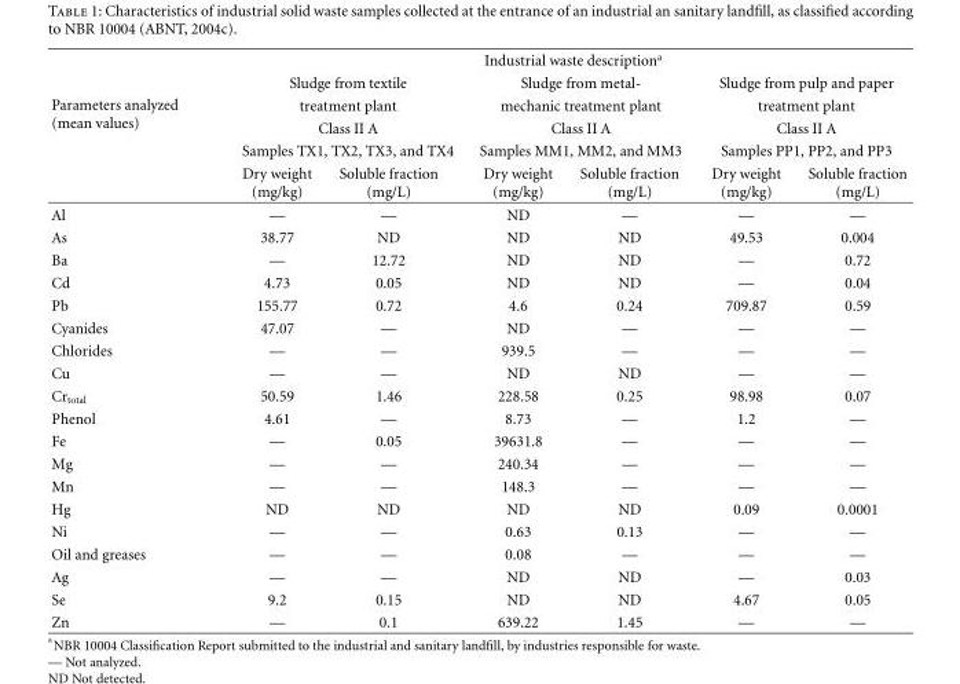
<table><thead><tr><td rowspan="6">Parameters analyzed (mean values)</td><td colspan="6">Industrial waste description<sup>a</sup></td></tr><tr><td rowspan="4" colspan="2">Sludge from textile treatment plant Class II A Samples TX1, TX2, TX3, and TX4</td><td rowspan="4" colspan="2">Sludge from metal- mechanic treatment plant Class II A Samples MM1, MM2, and MM3</td><td rowspan="4" colspan="2">Sludge from pulp and paper treatment plant Class II A Samples PP1, PP2, and PP3</td></tr><tr></tr><tr></tr><tr></tr><tr><td>Dry weight (mg/kg)</td><td>Soluble fraction (mg/L)</td><td>Dry weight (mg/kg)</td><td>Soluble fraction (mg/L)</td><td>Dry weight (mg/kg)</td><td>Soluble fraction (mg/L)</td></tr></thead><tbody><tr><td>Al</td><td>—</td><td>—</td><td>ND</td><td>—</td><td>—</td><td>—</td></tr><tr><td>As</td><td>38.77</td><td>ND</td><td>ND</td><td>ND</td><td>49.53</td><td>0.004</td></tr><tr><td>Ba</td><td>—</td><td>12.72</td><td>ND</td><td>ND</td><td>—</td><td>0.72</td></tr><tr><td>Cd</td><td>4.73</td><td>0.05</td><td>ND</td><td>ND</td><td>—</td><td>0.04</td></tr><tr><td>Pb</td><td>155.77</td><td>0.72</td><td>4.6</td><td>0.24</td><td>709.87</td><td>0.59</td></tr><tr><td>Cyanides</td><td>47.07</td><td>—</td><td>ND</td><td>—</td><td>—</td><td>—</td></tr><tr><td>Chlorides</td><td>—</td><td>—</td><td>939.5</td><td>—</td><td>—</td><td>—</td></tr><tr><td>Cu</td><td>—</td><td>—</td><td>ND</td><td>ND</td><td>—</td><td>—</td></tr><tr><td>Cr<sub>total</sub></td><td>50.59</td><td>1.46</td><td>228.58</td><td>0.25</td><td>98.98</td><td>0.07</td></tr><tr><td>Phenol</td><td>4.61</td><td>—</td><td>8.73</td><td>—</td><td>1.2</td><td>—</td></tr><tr><td>Fe</td><td>—</td><td>0.05</td><td>39631.8</td><td>—</td><td>—</td><td>—</td></tr><tr><td>Mg</td><td>—</td><td>—</td><td>240.34</td><td>—</td><td>—</td><td>—</td></tr><tr><td>Mn</td><td>—</td><td>—</td><td>148.3</td><td>—</td><td>—</td><td>—</td></tr><tr><td>Hg</td><td>ND</td><td>ND</td><td>ND</td><td>ND</td><td>0.09</td><td>0.0001</td></tr><tr><td>Ni</td><td>—</td><td>—</td><td>0.63</td><td>0.13</td><td>—</td><td>—</td></tr><tr><td>Oil and greases</td><td>—</td><td>—</td><td>0.08</td><td>—</td><td>—</td><td>—</td></tr><tr><td>Ag</td><td>—</td><td>—</td><td>ND</td><td>ND</td><td>—</td><td>0.03</td></tr><tr><td>Se</td><td>9.2</td><td>0.15</td><td>ND</td><td>ND</td><td>4.67</td><td>0.05</td></tr><tr><td>Zn</td><td>—</td><td>0.1</td><td>639.22</td><td>1.45</td><td>—</td><td>—</td></tr></tbody></table>